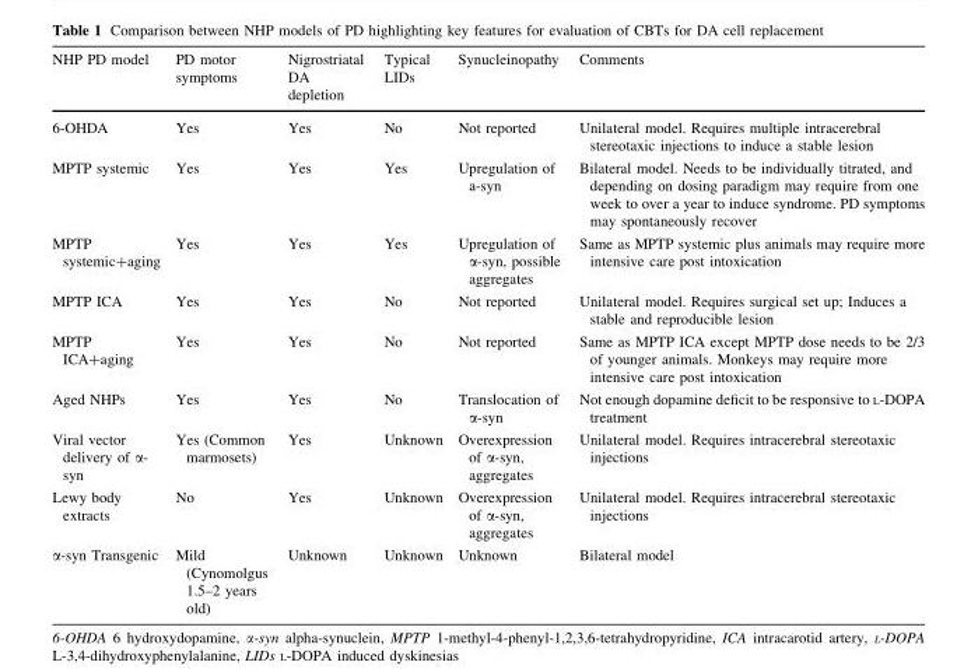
<table><thead><tr><td>NHP PD model</td><td>PD motor symptoms</td><td>Nigrostriatal DA depletion</td><td>Typical LIDs</td><td>Synucleinopathy</td><td>Comments</td></tr></thead><tbody><tr><td>6-OHDA</td><td>Yes</td><td>Yes</td><td>No</td><td>Not reported</td><td>Unilateral model. Requires multiple intracerebral stereotaxic injections to induce a stable lesion</td></tr><tr><td>MPTP systemic</td><td>Yes</td><td>Yes</td><td>Yes</td><td>Upregulation of a-syn</td><td>Bilateral model. Needs to be individually titrated, and depending on dosing paradigm may require from one week to over a year to induce syndrome. PD symptoms may spontaneously recover</td></tr><tr><td>MPTP systemic+aging</td><td>Yes</td><td>Yes</td><td>Yes</td><td>Upregulation of α-syn, possible aggregates</td><td>Same as MPTP systemic plus animals may require more intensive care post intoxication</td></tr><tr><td>MPTP ICA</td><td>Yes</td><td>Yes</td><td>No</td><td>Not reported</td><td>Unilateral model. Requires surgical set up; Induces a stable and reproducible lesion</td></tr><tr><td>MPTP ICA+aging</td><td>Yes</td><td>Yes</td><td>No</td><td>Not reported</td><td>Same as MPTP ICA except MPTP dose needs to be 2/3 of younger animals. Monkeys may require more intensive care post intoxication</td></tr><tr><td>Aged NHPs</td><td>Yes</td><td>Yes</td><td>No</td><td>Translocation of α-syn</td><td>Not enough dopamine deficit to be responsive to L-DOPA treatment</td></tr><tr><td>Viral vector delivery of α- syn</td><td>Yes (Common marmosets)</td><td>Yes</td><td>Unknown</td><td>Overexpression of α-syn, aggregates</td><td>Unilateral model. Requires intracerebral stereotaxic injections</td></tr><tr><td>Lewy body extracts</td><td>No</td><td>Yes</td><td>Unknown</td><td>Overexpression of α-syn, aggregates</td><td>Unilateral model. Requires intracerebral stereotaxic injections</td></tr><tr><td>α-syn Transgenic</td><td>Mild (Cynomolgus 1.5–2 years old)</td><td>Unknown</td><td>Unknown</td><td>Unknown</td><td>Bilateral model</td></tr></tbody></table>